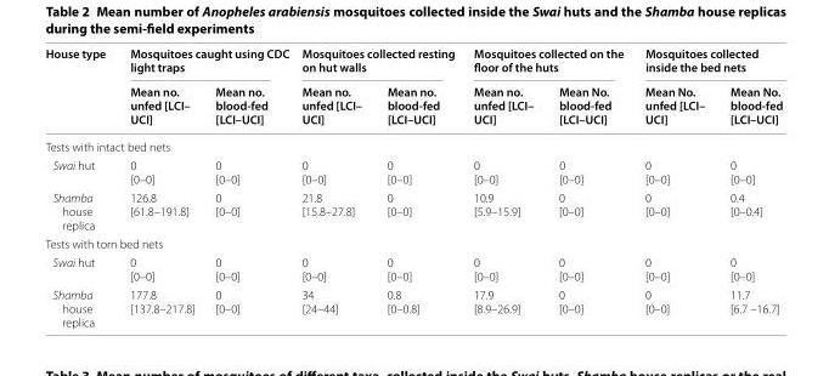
<table><thead><tr><td rowspan="2">House type</td><td colspan="2">Mosquitoes caught using CDC light traps</td><td colspan="2">Mosquitoes collected resting on hut walls</td><td colspan="2">Mosquitoes collected on the floor of the huts</td><td colspan="2">Mosquitoes collected inside the bed nets</td></tr><tr><td>Mean no. unfed [LCI– UCI]</td><td>Mean no. blood‑fed [LCI–UCI]</td><td>Mean no. unfed [LCI– UCI]</td><td>Mean no. blood‑fed [LCI–UCI]</td><td>Mean no. unfed [LCI– UCI]</td><td>Mean No. blood‑fed [LCI–UCI]</td><td>Mean No. unfed [LCI– UCI]</td><td>Mean No. blood‑fed [LCI–UCI]</td></tr></thead><tbody><tr><td colspan="9">Tests with intact bed nets</td></tr><tr><td>Swai hut</td><td>0 [0–0]</td><td>0 [0–0]</td><td>0 [0–0]</td><td>0 [0–0]</td><td>0 [0–0]</td><td>0 [0–0]</td><td>0 [0–0]</td><td>0 [0–0]</td></tr><tr><td>Shamba house replica</td><td>126.8 [61.8–191.8]</td><td>0 [0–0]</td><td>21.8 [15.8–27.8]</td><td>0 [0–0]</td><td>10.9 [5.9–15.9]</td><td>0 [0–0]</td><td>0 [0–0]</td><td>0.4 [0–0.4]</td></tr><tr><td colspan="9">Tests with torn bed nets</td></tr><tr><td>Swai hut</td><td>0 [0–0]</td><td>0 [0–0]</td><td>0 [0–0]</td><td>0 [0–0]</td><td>0 [0–0]</td><td>0 [0–0]</td><td>0 [0–0]</td><td>0 [0–0]</td></tr><tr><td>Shamba house replica</td><td>177.8 [137.8–217.8]</td><td>0 [0–0]</td><td>34 [24–44]</td><td>0.8 [0–0.8]</td><td>17.9 [8.9–26.9]</td><td>0 [0–0]</td><td>0 [0–0]</td><td>11.7 [6.7 –16.7]</td></tr></tbody></table>